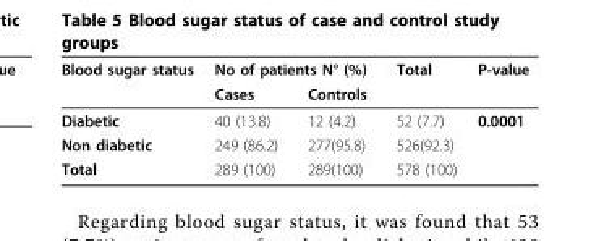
<table><thead><tr><td rowspan="2">Blood sugar status</td><td colspan="2">No of patients N° (%)</td><td rowspan="2">Total</td><td rowspan="2">P-value</td></tr><tr><td>Cases</td><td>Controls</td></tr></thead><tbody><tr><td>Diabetic</td><td>40 (13.8)</td><td>12 (4.2)</td><td>52 (7.7)</td><td>0.0001</td></tr><tr><td>Non diabetic</td><td>249 (86.2)</td><td>277(95.8)</td><td>526(92.3)</td><td></td></tr><tr><td>Total</td><td>289 (100)</td><td>289(100)</td><td>578 (100)</td><td></td></tr></tbody></table>